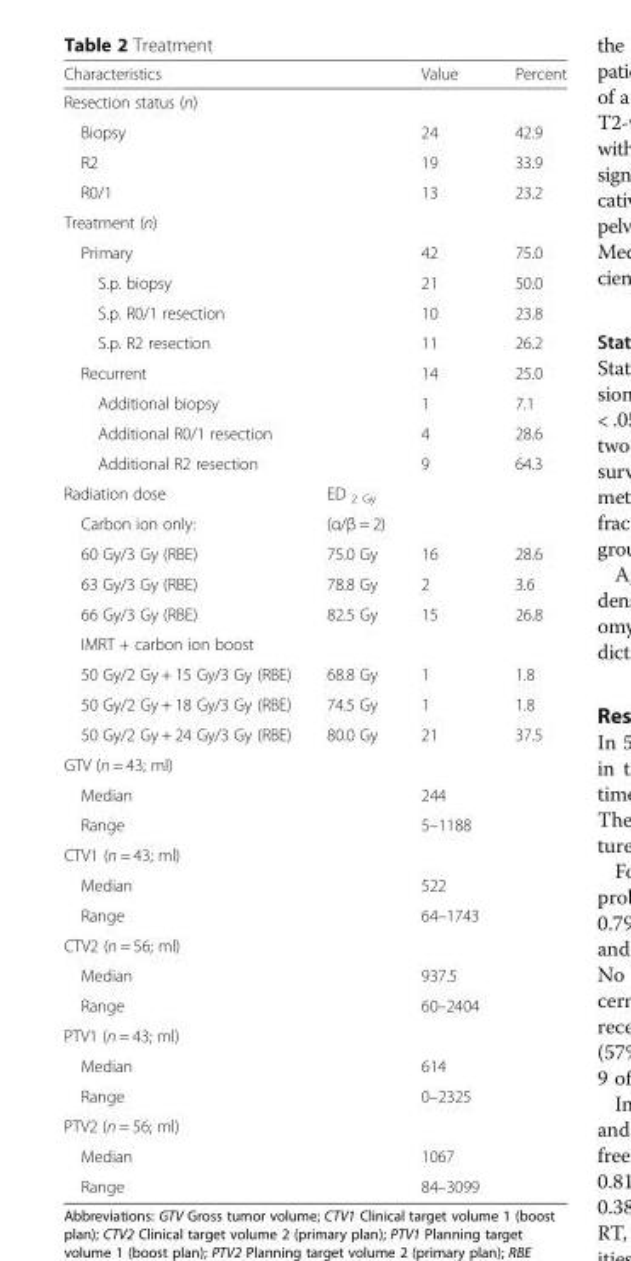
<table><thead><tr><td colspan="2">Characteristics</td><td>Value</td><td>Percent</td></tr></thead><tbody><tr><td colspan="4">Resection status (n)</td></tr><tr><td colspan="2">Biopsy</td><td>24</td><td>42.9</td></tr><tr><td colspan="2">R2</td><td>19</td><td>33.9</td></tr><tr><td colspan="2">R0/1</td><td>13</td><td>23.2</td></tr><tr><td colspan="4">Treatment (n)</td></tr><tr><td colspan="2">Primary</td><td>42</td><td>75.0</td></tr><tr><td colspan="2">S.p. biopsy</td><td>21</td><td>50.0</td></tr><tr><td colspan="2">S.p. R0/1 resection</td><td>10</td><td>23.8</td></tr><tr><td colspan="2">S.p. R2 resection</td><td>11</td><td>26.2</td></tr><tr><td colspan="2">Recurrent</td><td>14</td><td>25.0</td></tr><tr><td colspan="2">Additional biopsy</td><td>1</td><td>7.1</td></tr><tr><td colspan="2">Additional R0/1 resection</td><td>4</td><td>28.6</td></tr><tr><td colspan="2">Additional R2 resection</td><td>9</td><td>64.3</td></tr><tr><td>Radiation dose</td><td>ED <sub>2 Gy</sub></td><td></td><td></td></tr><tr><td>Carbon ion only:</td><td>(α/β = 2)</td><td></td><td></td></tr><tr><td>60 Gy/3 Gy (RBE)</td><td>75.0 Gy</td><td>16</td><td>28.6</td></tr><tr><td>63 Gy/3 Gy (RBE)</td><td>78.8 Gy</td><td>2</td><td>3.6</td></tr><tr><td>66 Gy/3 Gy (RBE)</td><td>82.5 Gy</td><td>15</td><td>26.8</td></tr><tr><td colspan="4">IMRT + carbon ion boost</td></tr><tr><td>50 Gy/2 Gy + 15 Gy/3 Gy (RBE)</td><td>68.8 Gy</td><td>1</td><td>1.8</td></tr><tr><td>50 Gy/2 Gy + 18 Gy/3 Gy (RBE)</td><td>74.5 Gy</td><td>1</td><td>1.8</td></tr><tr><td>50 Gy/2 Gy + 24 Gy/3 Gy (RBE)</td><td>80.0 Gy</td><td>21</td><td>37.5</td></tr><tr><td colspan="4">GTV (n = 43; ml)</td></tr><tr><td colspan="2">Median</td><td>244</td><td></td></tr><tr><td colspan="2">Range</td><td>5–1188</td><td></td></tr><tr><td colspan="4">CTV1 (n = 43; ml)</td></tr><tr><td colspan="2">Median</td><td>522</td><td></td></tr><tr><td colspan="2">Range</td><td>64–1743</td><td></td></tr><tr><td colspan="4">CTV2 (n = 56; ml)</td></tr><tr><td colspan="2">Median</td><td>937.5</td><td></td></tr><tr><td colspan="2">Range</td><td>60–2404</td><td></td></tr><tr><td colspan="4">PTV1 (n = 43; ml)</td></tr><tr><td colspan="2">Median</td><td>614</td><td></td></tr><tr><td colspan="2">Range</td><td>0–2325</td><td></td></tr><tr><td colspan="4">PTV2 (n = 56; ml)</td></tr><tr><td colspan="2">Median</td><td>1067</td><td></td></tr><tr><td colspan="2">Range</td><td>84–3099</td><td></td></tr></tbody></table>